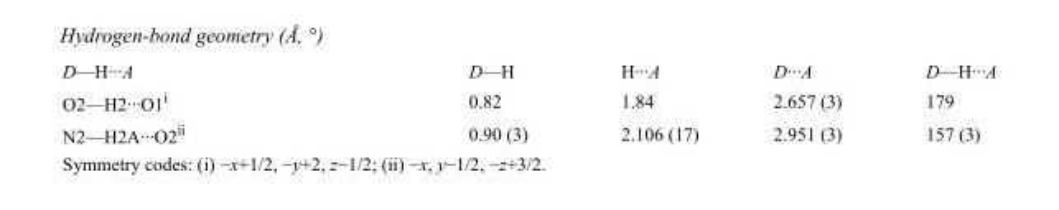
<table><tbody><tr><td>D—H···A</td><td>D—H</td><td>H···A</td><td>D···A</td><td>D—H···A</td></tr><tr><td>O2—H2···O1<sup>i</sup></td><td>0.82</td><td>1.84</td><td>2.657 (3)</td><td>179</td></tr><tr><td>N2—H2A···O2<sup>ii</sup></td><td>0.90 (3)</td><td>2.106 (17)</td><td>2.951 (3)</td><td>157 (3)</td></tr></tbody></table>